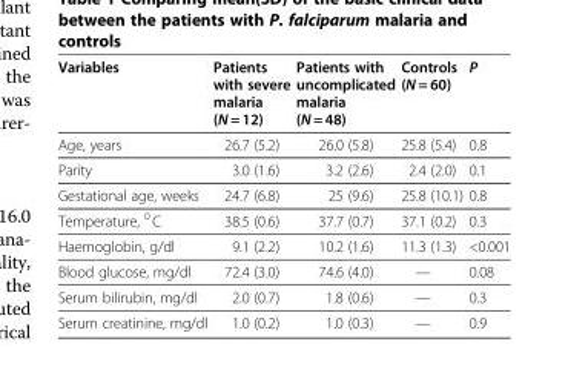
<table><thead><tr><td>Variables</td><td>Patients with severe malaria (N = 12)</td><td>Patients with uncomplicated malaria (N = 48)</td><td>Controls (N = 60)</td><td>P</td></tr></thead><tbody><tr><td>Age, years</td><td>26.7 (5.2)</td><td>26.0 (5.8)</td><td>25.8 (5.4)</td><td>0.8</td></tr><tr><td>Parity</td><td>3.0 (1.6)</td><td>3.2 (2.6)</td><td>2.4 (2.0)</td><td>0.1</td></tr><tr><td>Gestational age, weeks</td><td>24.7 (6.8)</td><td>25 (9.6)</td><td>25.8 (10.1)</td><td>0.8</td></tr><tr><td>Temperature, <sup>0</sup> C</td><td>38.5 (0.6)</td><td>37.7 (0.7)</td><td>37.1 (0.2)</td><td>0.3</td></tr><tr><td>Haemoglobin, g/dl</td><td>9.1 (2.2)</td><td>10.2 (1.6)</td><td>11.3 (1.3)</td><td>&lt;0.001</td></tr><tr><td>Blood glucose, mg/dl</td><td>72.4 (3.0)</td><td>74.6 (4.0)</td><td>—</td><td>0.08</td></tr><tr><td>Serum bilirubin, mg/dl</td><td>2.0 (0.7)</td><td>1.8 (0.6)</td><td>—</td><td>0.3</td></tr><tr><td>Serum creatinine, mg/dl</td><td>1.0 (0.2)</td><td>1.0 (0.3)</td><td>—</td><td>0.9</td></tr></tbody></table>